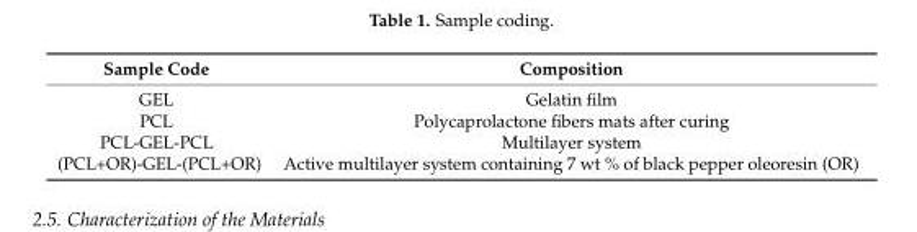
<table><thead><tr><td>Sample Code</td><td>Composition</td></tr></thead><tbody><tr><td>GEL</td><td>Gelatin film</td></tr><tr><td>PCL</td><td>Polycaprolactone fibers mats after curing</td></tr><tr><td>PCL-GEL-PCL (PCL+OR)-GEL-(PCL+OR)</td><td>Multilayer system Active multilayer system containing 7 wt % of black pepper oleoresin (OR)</td></tr></tbody></table>